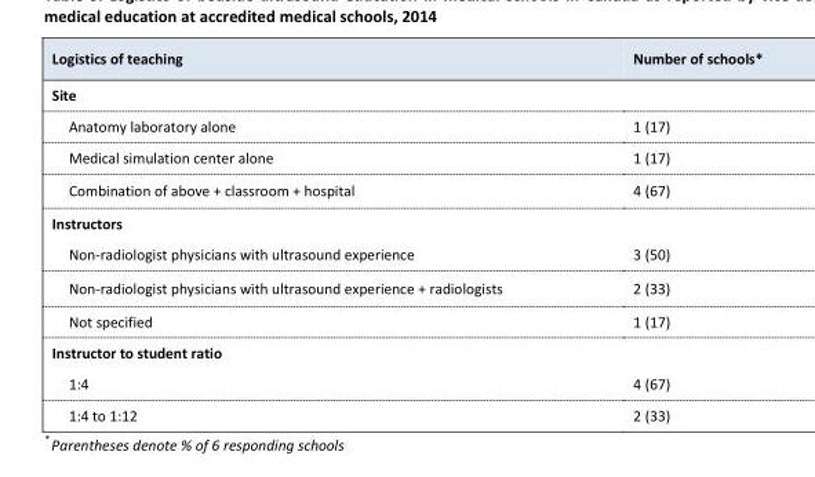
<table><thead><tr><td>Logistics of teaching</td><td>Number of schools*</td></tr></thead><tbody><tr><td colspan="2">Site</td></tr><tr><td>Anatomy laboratory alone</td><td>1 (17)</td></tr><tr><td>Medical simulation center alone</td><td>1 (17)</td></tr><tr><td>Combination of above + classroom + hospital</td><td>4 (67)</td></tr><tr><td colspan="2">Instructors</td></tr><tr><td>Non-radiologist physicians with ultrasound experience</td><td>3 (50)</td></tr><tr><td>Non-radiologist physicians with ultrasound experience + radiologists</td><td>2 (33)</td></tr><tr><td>Not specified</td><td>1 (17)</td></tr><tr><td colspan="2">Instructor to student ratio</td></tr><tr><td>1:4</td><td>4 (67)</td></tr><tr><td>1:4 to 1:12</td><td>2 (33)</td></tr></tbody></table>